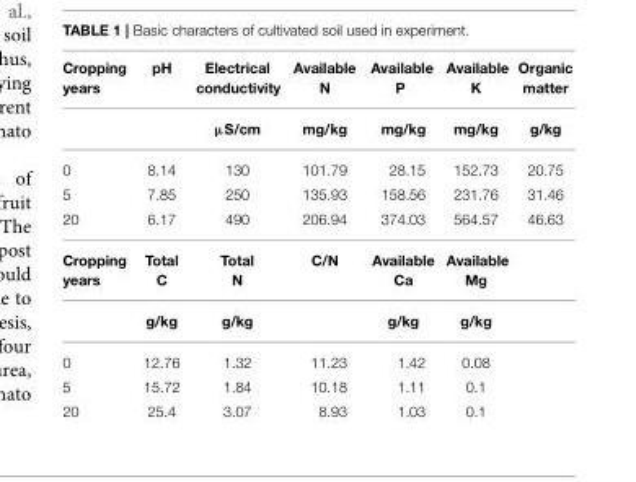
<table><thead><tr><td>Cropping years</td><td>pH</td><td>Electrical conductivity</td><td>Available N</td><td>Available P</td><td>Available K</td><td>Organic matter</td></tr></thead><tbody><tr><td></td><td></td><td>µS/cm</td><td>mg/kg</td><td>mg/kg</td><td>mg/kg</td><td>g/kg</td></tr><tr><td>0</td><td>8.14</td><td>130</td><td>101.79</td><td>28.15</td><td>152.73</td><td>20.75</td></tr><tr><td>5</td><td>7.85</td><td>250</td><td>135.93</td><td>158.56</td><td>231.76</td><td>31.46</td></tr><tr><td>20</td><td>6.17</td><td>490</td><td>206.94</td><td>374.03</td><td>564.57</td><td>46.63</td></tr><tr><td rowspan="2">Cropping years</td><td>Total C</td><td>Total N</td><td>C/N</td><td>Available Ca</td><td>Available Mg</td><td></td></tr><tr><td>g/kg</td><td>g/kg</td><td></td><td>g/kg</td><td>g/kg</td><td></td></tr><tr><td>0</td><td>12.76</td><td>1.32</td><td>11.23</td><td>1.42</td><td>0.08</td><td></td></tr><tr><td>5</td><td>15.72</td><td>1.84</td><td>10.18</td><td>1.11</td><td>0.1</td><td></td></tr><tr><td>20</td><td>25.4</td><td>3.07</td><td>8.93</td><td>1.03</td><td>0.1</td><td></td></tr></tbody></table>